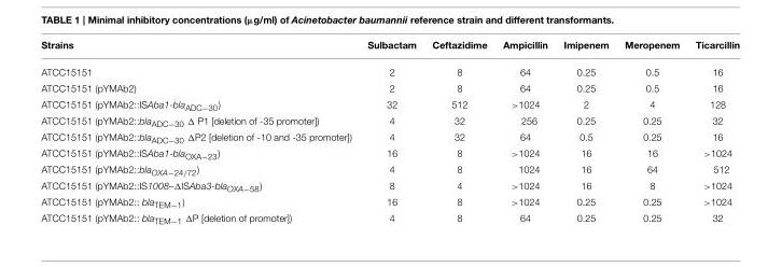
<table><thead><tr><td>Strains</td><td>Sulbactam</td><td>Ceftazidime</td><td>Ampicillin</td><td>Imipenem</td><td>Meropenem</td><td>Ticarcillin</td></tr></thead><tbody><tr><td>ATCC15151</td><td>2</td><td>8</td><td>64</td><td>0.25</td><td>0.5</td><td>16</td></tr><tr><td>ATCC15151 (pYMAb2)</td><td>2</td><td>8</td><td>64</td><td>0.25</td><td>0.5</td><td>16</td></tr><tr><td>ATCC15151 (pYMAb2::ISAba1-bla<sub>ADC−30</sub>)</td><td>32</td><td>512</td><td>&gt;1024</td><td>2</td><td>4</td><td>128</td></tr><tr><td>ATCC15151 (pYMAb2::bla<sub>ADC−30</sub> Δ P1 [deletion of -35 promoter])</td><td>4</td><td>32</td><td>256</td><td>0.25</td><td>0.25</td><td>32</td></tr><tr><td>ATCC15151 (pYMAb2::bla<sub>ADC−30</sub> ΔP2 [deletion of -10 and -35 promoter])</td><td>4</td><td>32</td><td>64</td><td>0.5</td><td>0.25</td><td>16</td></tr><tr><td>ATCC15151 (pYMAb2::ISAba1-bla<sub>OXA−23</sub>)</td><td>16</td><td>8</td><td>&gt;1024</td><td>16</td><td>16</td><td>&gt;1024</td></tr><tr><td>ATCC15151 (pYMAb2::bla<sub>OXA−24/72</sub>)</td><td>4</td><td>8</td><td>1024</td><td>16</td><td>64</td><td>512</td></tr><tr><td>ATCC15151 (pYMAb2::IS1008–ΔISAba3-bla<sub>OXA−58</sub>)</td><td>8</td><td>4</td><td>&gt;1024</td><td>16</td><td>8</td><td>&gt;1024</td></tr><tr><td>ATCC15151 (pYMAb2:: bla<sub>TEM−1</sub>)</td><td>16</td><td>8</td><td>&gt;1024</td><td>0.25</td><td>0.25</td><td>&gt;1024</td></tr><tr><td>ATCC15151 (pYMAb2:: bla<sub>TEM−1</sub> ΔP [deletion of promoter])</td><td>4</td><td>8</td><td>64</td><td>0.25</td><td>0.25</td><td>32</td></tr></tbody></table>